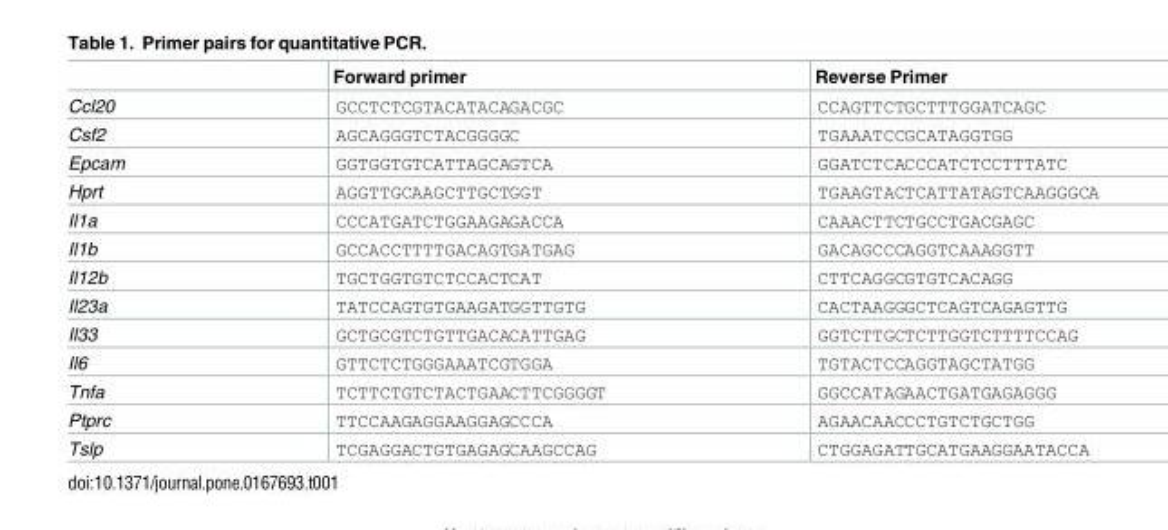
<table><thead><tr><td></td><td>Forward primer</td><td>Reverse Primer</td></tr></thead><tbody><tr><td>Ccl20</td><td>GCCTCTCGTACATACAGACGC</td><td>CCAGTTCTGCTTTGGATCAGC</td></tr><tr><td>Csf2</td><td>AGCAGGGTCTACGGGGC</td><td>TGAAATCCGCATAGGTGG</td></tr><tr><td>Epcam</td><td>GGTGGTGTCATTAGCAGTCA</td><td>GGATCTCACCCATCTCCTTTATC</td></tr><tr><td>Hprt</td><td>AGGTTGCAAGCTTGCTGGT</td><td>TGAAGTACTCATTATAGTCAAGGGCA</td></tr><tr><td>Il1a</td><td>CCCATGATCTGGAAGAGACCA</td><td>CAAACTTCTGCCTGACGAGC</td></tr><tr><td>Il1b</td><td>GCCACCTTTTGACAGTGATGAG</td><td>GACAGCCCAGGTCAAAGGTT</td></tr><tr><td>Il12b</td><td>TGCTGGTGTCTCCACTCAT</td><td>CTTCAGGCGTGTCACAGG</td></tr><tr><td>Il23a</td><td>TATCCAGTGTGAAGATGGTTGTG</td><td>CACTAAGGGCTCAGTCAGAGTTG</td></tr><tr><td>Il33</td><td>GCTGCGTCTGTTGACACATTGAG</td><td>GGTCTTGCTCTTGGTCTTTTCCAG</td></tr><tr><td>Il6</td><td>GTTCTCTGGGAAATCGTGGA</td><td>TGTACTCCAGGTAGCTATGG</td></tr><tr><td>Tnfa</td><td>TCTTCTGTCTACTGAACTTCGGGGT</td><td>GGCCATAGAACTGATGAGAGGG</td></tr><tr><td>Ptprc</td><td>TTCCAAGAGGAAGGAGCCCA</td><td>AGAACAACCCTGTCTGCTGG</td></tr><tr><td>Tslp</td><td>TCGAGGACTGTGAGAGCAAGCCAG</td><td>CTGGAGATTGCATGAAGGAATACCA</td></tr></tbody></table>